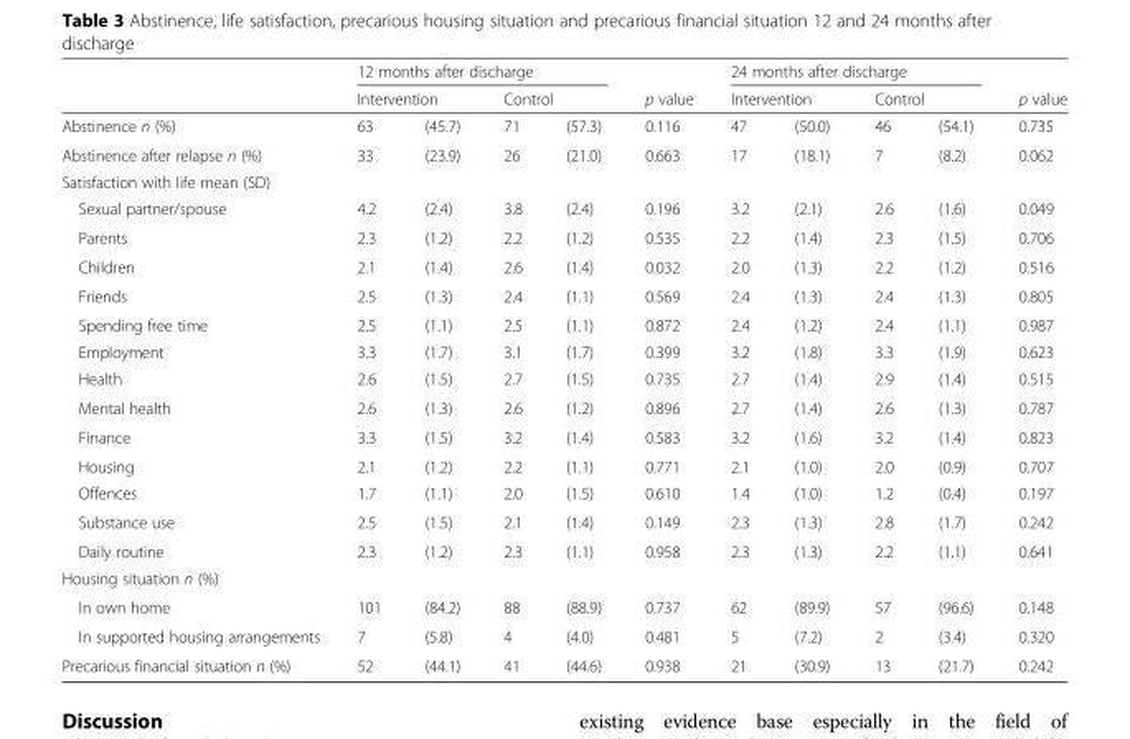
<table><thead><tr><td rowspan="3">Abstinence n (%)</td><td colspan="4">12 months after discharge</td><td rowspan="3">p value 0.116</td><td colspan="4">24 months after discharge</td><td rowspan="3">p value 0.735</td></tr><tr><td colspan="2">Intervention</td><td colspan="2">Control</td><td colspan="2">Intervention</td><td colspan="2">Control</td></tr><tr><td>63</td><td>(45.7)</td><td>71</td><td>(57.3)</td><td>47</td><td>(50.0)</td><td>46</td><td>(54.1)</td></tr></thead><tbody><tr><td>Abstinence after relapse n (%)</td><td>33</td><td>(23.9)</td><td>26</td><td>(21.0)</td><td>0.663</td><td>17</td><td>(18.1)</td><td>7</td><td>(8.2)</td><td>0.062</td></tr><tr><td colspan="11">Satisfaction with life mean (SD)</td></tr><tr><td>Sexual partner/spouse</td><td>4.2</td><td>(2.4)</td><td>3.8</td><td>(2.4)</td><td>0.196</td><td>3.2</td><td>(2.1)</td><td>2.6</td><td>(1.6)</td><td>0.049</td></tr><tr><td>Parents</td><td>2.3</td><td>(1.2)</td><td>2.2</td><td>(1.2)</td><td>0.535</td><td>2.2</td><td>(1.4)</td><td>2.3</td><td>(1.5)</td><td>0.706</td></tr><tr><td>Children</td><td>2.1</td><td>(1.4)</td><td>2.6</td><td>(1.4)</td><td>0.032</td><td>2.0</td><td>(1.3)</td><td>2.2</td><td>(1.2)</td><td>0.516</td></tr><tr><td>Friends</td><td>2.5</td><td>(1.3)</td><td>2.4</td><td>(1.1)</td><td>0.569</td><td>2.4</td><td>(1.3)</td><td>2.4</td><td>(1.3)</td><td>0.805</td></tr><tr><td>Spending free time</td><td>2.5</td><td>(1.1)</td><td>2.5</td><td>(1.1)</td><td>0.872</td><td>2.4</td><td>(1.2)</td><td>2.4</td><td>(1.1)</td><td>0.987</td></tr><tr><td>Employment</td><td>3.3</td><td>(1.7)</td><td>3.1</td><td>(1.7)</td><td>0.399</td><td>3.2</td><td>(1.8)</td><td>3.3</td><td>(1.9)</td><td>0.623</td></tr><tr><td>Health</td><td>2.6</td><td>(1.5)</td><td>2.7</td><td>(1.5)</td><td>0.735</td><td>2.7</td><td>(1.4)</td><td>2.9</td><td>(1.4)</td><td>0.515</td></tr><tr><td>Mental health</td><td>2.6</td><td>(1.3)</td><td>2.6</td><td>(1.2)</td><td>0.896</td><td>2.7</td><td>(1.4)</td><td>2.6</td><td>(1.3)</td><td>0.787</td></tr><tr><td>Finance</td><td>3.3</td><td>(1.5)</td><td>3.2</td><td>(1.4)</td><td>0.583</td><td>3.2</td><td>(1.6)</td><td>3.2</td><td>(1.4)</td><td>0.823</td></tr><tr><td>Housing</td><td>2.1</td><td>(1.2)</td><td>2.2</td><td>(1.1)</td><td>0.771</td><td>2.1</td><td>(1.0)</td><td>2.0</td><td>(0.9)</td><td>0.707</td></tr><tr><td>Offences</td><td>1.7</td><td>(1.1)</td><td>2.0</td><td>(1.5)</td><td>0.610</td><td>1.4</td><td>(1.0)</td><td>1.2</td><td>(0.4)</td><td>0.197</td></tr><tr><td>Substance use</td><td>2.5</td><td>(1.5)</td><td>2.1</td><td>(1.4)</td><td>0.149</td><td>2.3</td><td>(1.3)</td><td>2.8</td><td>(1.7)</td><td>0.242</td></tr><tr><td>Daily routine</td><td>2.3</td><td>(1.2)</td><td>2.3</td><td>(1.1)</td><td>0.958</td><td>2.3</td><td>(1.3)</td><td>2.2</td><td>(1.1)</td><td>0.641</td></tr><tr><td colspan="11">Housing situation n (%)</td></tr><tr><td>In own home</td><td>101</td><td>(84.2)</td><td>88</td><td>(88.9)</td><td>0.737</td><td>62</td><td>(89.9)</td><td>57</td><td>(96.6)</td><td>0.148</td></tr><tr><td>In supported housing arrangements</td><td>7</td><td>(5.8)</td><td>4</td><td>(4.0)</td><td>0.481</td><td>5</td><td>(7.2)</td><td>2</td><td>(3.4)</td><td>0.320</td></tr><tr><td>Precarious financial situation n (%)</td><td>52</td><td>(44.1)</td><td>41</td><td>(44.6)</td><td>0.938</td><td>21</td><td>(30.9)</td><td>13</td><td>(21.7)</td><td>0.242</td></tr></tbody></table>